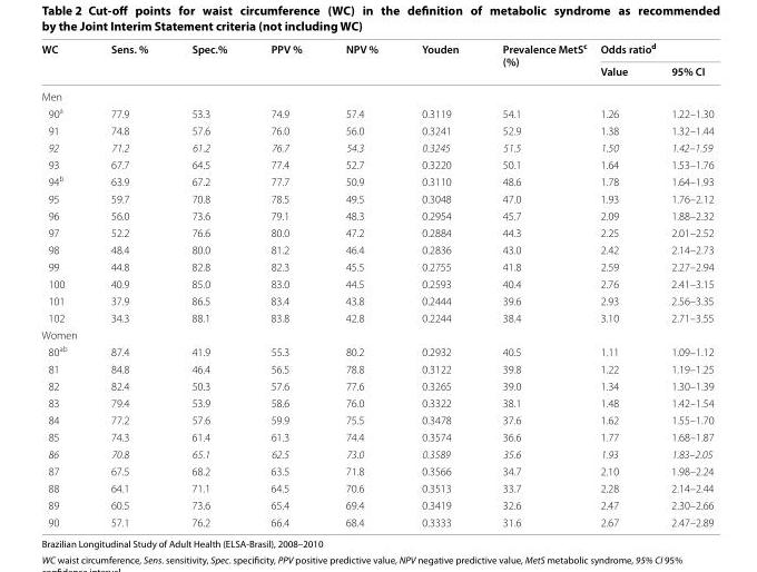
<table><thead><tr><td rowspan="2">WC</td><td rowspan="2">Sens. %</td><td rowspan="2">Spec.%</td><td rowspan="2">PPV %</td><td rowspan="2">NPV %</td><td rowspan="2">Youden</td><td rowspan="2">Prevalence MetS<sup>c</sup> (%)</td><td colspan="2">Odds ratio<sup>d</sup></td></tr><tr><td>Value</td><td>95% CI</td></tr></thead><tbody><tr><td colspan="9">Men</td></tr><tr><td>90<sup>a</sup></td><td>77.9</td><td>53.3</td><td>74.9</td><td>57.4</td><td>0.3119</td><td>54.1</td><td>1.26</td><td>1.22–1.30</td></tr><tr><td>91</td><td>74.8</td><td>57.6</td><td>76.0</td><td>56.0</td><td>0.3241</td><td>52.9</td><td>1.38</td><td>1.32–1.44</td></tr><tr><td>92</td><td>71.2</td><td>61.2</td><td>76.7</td><td>54.3</td><td>0.3245</td><td>51.5</td><td>1.50</td><td>1.42–1.59</td></tr><tr><td>93</td><td>67.7</td><td>64.5</td><td>77.4</td><td>52.7</td><td>0.3220</td><td>50.1</td><td>1.64</td><td>1.53–1.76</td></tr><tr><td>94<sup>b</sup></td><td>63.9</td><td>67.2</td><td>77.7</td><td>50.9</td><td>0.3110</td><td>48.6</td><td>1.78</td><td>1.64–1.93</td></tr><tr><td>95</td><td>59.7</td><td>70.8</td><td>78.5</td><td>49.5</td><td>0.3048</td><td>47.0</td><td>1.93</td><td>1.76–2.12</td></tr><tr><td>96</td><td>56.0</td><td>73.6</td><td>79.1</td><td>48.3</td><td>0.2954</td><td>45.7</td><td>2.09</td><td>1.88–2.32</td></tr><tr><td>97</td><td>52.2</td><td>76.6</td><td>80.0</td><td>47.2</td><td>0.2884</td><td>44.3</td><td>2.25</td><td>2.01–2.52</td></tr><tr><td>98</td><td>48.4</td><td>80.0</td><td>81.2</td><td>46.4</td><td>0.2836</td><td>43.0</td><td>2.42</td><td>2.14–2.73</td></tr><tr><td>99</td><td>44.8</td><td>82.8</td><td>82.3</td><td>45.5</td><td>0.2755</td><td>41.8</td><td>2.59</td><td>2.27–2.94</td></tr><tr><td>100</td><td>40.9</td><td>85.0</td><td>83.0</td><td>44.5</td><td>0.2593</td><td>40.4</td><td>2.76</td><td>2.41–3.15</td></tr><tr><td>101</td><td>37.9</td><td>86.5</td><td>83.4</td><td>43.8</td><td>0.2444</td><td>39.6</td><td>2.93</td><td>2.56–3.35</td></tr><tr><td>102</td><td>34.3</td><td>88.1</td><td>83.8</td><td>42.8</td><td>0.2244</td><td>38.4</td><td>3.10</td><td>2.71–3.55</td></tr><tr><td colspan="9">Women</td></tr><tr><td>80<sup>ab</sup></td><td>87.4</td><td>41.9</td><td>55.3</td><td>80.2</td><td>0.2932</td><td>40.5</td><td>1.11</td><td>1.09–1.12</td></tr><tr><td>81</td><td>84.8</td><td>46.4</td><td>56.5</td><td>78.8</td><td>0.3122</td><td>39.8</td><td>1.22</td><td>1.19–1.25</td></tr><tr><td>82</td><td>82.4</td><td>50.3</td><td>57.6</td><td>77.6</td><td>0.3265</td><td>39.0</td><td>1.34</td><td>1.30–1.39</td></tr><tr><td>83</td><td>79.4</td><td>53.9</td><td>58.6</td><td>76.0</td><td>0.3322</td><td>38.1</td><td>1.48</td><td>1.42–1.54</td></tr><tr><td>84</td><td>77.2</td><td>57.6</td><td>59.9</td><td>75.5</td><td>0.3478</td><td>37.6</td><td>1.62</td><td>1.55–1.70</td></tr><tr><td>85</td><td>74.3</td><td>61.4</td><td>61.3</td><td>74.4</td><td>0.3574</td><td>36.6</td><td>1.77</td><td>1.68–1.87</td></tr><tr><td>86</td><td>70.8</td><td>65.1</td><td>62.5</td><td>73.0</td><td>0.3589</td><td>35.6</td><td>1.93</td><td>1.83–2.05</td></tr><tr><td>87</td><td>67.5</td><td>68.2</td><td>63.5</td><td>71.8</td><td>0.3566</td><td>34.7</td><td>2.10</td><td>1.98–2.24</td></tr><tr><td>88</td><td>64.1</td><td>71.1</td><td>64.5</td><td>70.6</td><td>0.3513</td><td>33.7</td><td>2.28</td><td>2.14–2.44</td></tr><tr><td>89</td><td>60.5</td><td>73.6</td><td>65.4</td><td>69.4</td><td>0.3419</td><td>32.6</td><td>2.47</td><td>2.30–2.66</td></tr><tr><td>90</td><td>57.1</td><td>76.2</td><td>66.4</td><td>68.4</td><td>0.3333</td><td>31.6</td><td>2.67</td><td>2.47–2.89</td></tr></tbody></table>